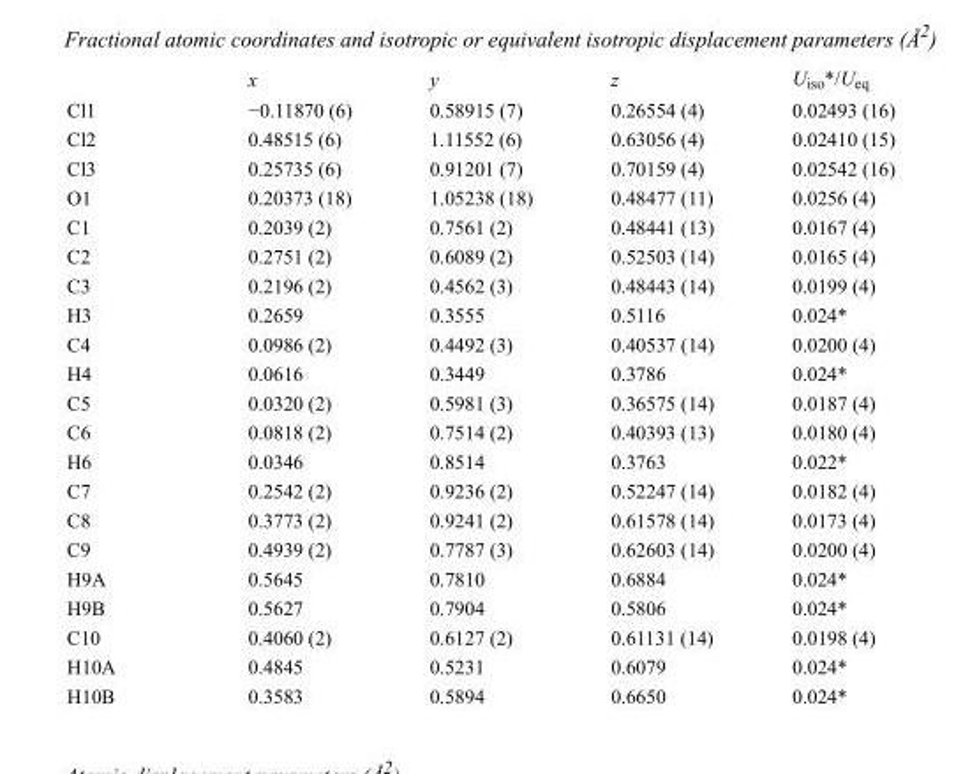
<table><thead><tr><td></td><td>x</td><td>y</td><td>z</td><td>U<sub>iso</sub>*/U<sub>eq</sub></td></tr></thead><tbody><tr><td>Cl1</td><td>−0.11870 (6)</td><td>0.58915 (7)</td><td>0.26554 (4)</td><td>0.02493 (16)</td></tr><tr><td>Cl2</td><td>0.48515 (6)</td><td>1.11552 (6)</td><td>0.63056 (4)</td><td>0.02410 (15)</td></tr><tr><td>Cl3</td><td>0.25735 (6)</td><td>0.91201 (7)</td><td>0.70159 (4)</td><td>0.02542 (16)</td></tr><tr><td>O1</td><td>0.20373 (18)</td><td>1.05238 (18)</td><td>0.48477 (11)</td><td>0.0256 (4)</td></tr><tr><td>C1</td><td>0.2039 (2)</td><td>0.7561 (2)</td><td>0.48441 (13)</td><td>0.0167 (4)</td></tr><tr><td>C2</td><td>0.2751 (2)</td><td>0.6089 (2)</td><td>0.52503 (14)</td><td>0.0165 (4)</td></tr><tr><td>C3</td><td>0.2196 (2)</td><td>0.4562 (3)</td><td>0.48443 (14)</td><td>0.0199 (4)</td></tr><tr><td>H3</td><td>0.2659</td><td>0.3555</td><td>0.5116</td><td>0.024*</td></tr><tr><td>C4</td><td>0.0986 (2)</td><td>0.4492 (3)</td><td>0.40537 (14)</td><td>0.0200 (4)</td></tr><tr><td>H4</td><td>0.0616</td><td>0.3449</td><td>0.3786</td><td>0.024*</td></tr><tr><td>C5</td><td>0.0320 (2)</td><td>0.5981 (3)</td><td>0.36575 (14)</td><td>0.0187 (4)</td></tr><tr><td>C6</td><td>0.0818 (2)</td><td>0.7514 (2)</td><td>0.40393 (13)</td><td>0.0180 (4)</td></tr><tr><td>H6</td><td>0.0346</td><td>0.8514</td><td>0.3763</td><td>0.022*</td></tr><tr><td>C7</td><td>0.2542 (2)</td><td>0.9236 (2)</td><td>0.52247 (14)</td><td>0.0182 (4)</td></tr><tr><td>C8</td><td>0.3773 (2)</td><td>0.9241 (2)</td><td>0.61578 (14)</td><td>0.0173 (4)</td></tr><tr><td>C9</td><td>0.4939 (2)</td><td>0.7787 (3)</td><td>0.62603 (14)</td><td>0.0200 (4)</td></tr><tr><td>H9A</td><td>0.5645</td><td>0.7810</td><td>0.6884</td><td>0.024*</td></tr><tr><td>H9B</td><td>0.5627</td><td>0.7904</td><td>0.5806</td><td>0.024*</td></tr><tr><td>C10</td><td>0.4060 (2)</td><td>0.6127 (2)</td><td>0.61131 (14)</td><td>0.0198 (4)</td></tr><tr><td>H10A</td><td>0.4845</td><td>0.5231</td><td>0.6079</td><td>0.024*</td></tr><tr><td>H10B</td><td>0.3583</td><td>0.5894</td><td>0.6650</td><td>0.024*</td></tr></tbody></table>